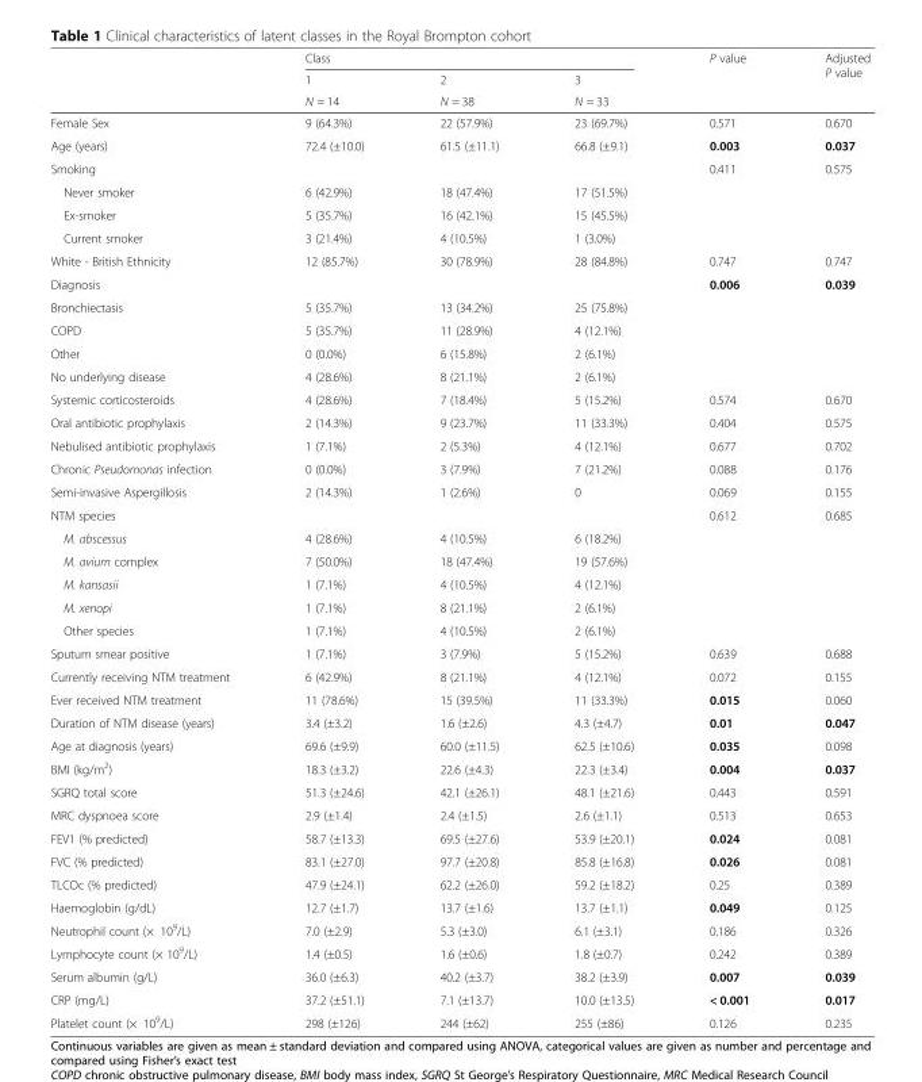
<table><thead><tr><td rowspan="3"></td><td colspan="3">Class</td><td rowspan="3">P value</td><td rowspan="3">Adjusted P value</td></tr><tr><td rowspan="2">1 N = 14</td><td rowspan="2">2 N = 38</td><td rowspan="2">3 N = 33</td></tr><tr></tr></thead><tbody><tr><td>Female Sex</td><td>9 (64.3%)</td><td>22 (57.9%)</td><td>23 (69.7%)</td><td>0.571</td><td>0.670</td></tr><tr><td>Age (years)</td><td>72.4 (±10.0)</td><td>61.5 (±11.1)</td><td>66.8 (±9.1)</td><td>0.003</td><td>0.037</td></tr><tr><td>Smoking</td><td></td><td></td><td></td><td>0.411</td><td>0.575</td></tr><tr><td>Never smoker</td><td>6 (42.9%)</td><td>18 (47.4%)</td><td>17 (51.5%)</td><td></td><td></td></tr><tr><td>Ex-smoker</td><td>5 (35.7%)</td><td>16 (42.1%)</td><td>15 (45.5%)</td><td></td><td></td></tr><tr><td>Current smoker</td><td>3 (21.4%)</td><td>4 (10.5%)</td><td>1 (3.0%)</td><td></td><td></td></tr><tr><td>White - British Ethnicity</td><td>12 (85.7%)</td><td>30 (78.9%)</td><td>28 (84.8%)</td><td>0.747</td><td>0.747</td></tr><tr><td>Diagnosis</td><td></td><td></td><td></td><td>0.006</td><td>0.039</td></tr><tr><td>Bronchiectasis</td><td>5 (35.7%)</td><td>13 (34.2%)</td><td>25 (75.8%)</td><td></td><td></td></tr><tr><td>COPD</td><td>5 (35.7%)</td><td>11 (28.9%)</td><td>4 (12.1%)</td><td></td><td></td></tr><tr><td>Other</td><td>0 (0.0%)</td><td>6 (15.8%)</td><td>2 (6.1%)</td><td></td><td></td></tr><tr><td>No underlying disease</td><td>4 (28.6%)</td><td>8 (21.1%)</td><td>2 (6.1%)</td><td></td><td></td></tr><tr><td>Systemic corticosteroids</td><td>4 (28.6%)</td><td>7 (18.4%)</td><td>5 (15.2%)</td><td>0.574</td><td>0.670</td></tr><tr><td>Oral antibiotic prophylaxis</td><td>2 (14.3%)</td><td>9 (23.7%)</td><td>11 (33.3%)</td><td>0.404</td><td>0.575</td></tr><tr><td>Nebulised antibiotic prophylaxis</td><td>1 (7.1%)</td><td>2 (5.3%)</td><td>4 (12.1%)</td><td>0.677</td><td>0.702</td></tr><tr><td>Chronic Pseudomonas infection</td><td>0 (0.0%)</td><td>3 (7.9%)</td><td>7 (21.2%)</td><td>0.088</td><td>0.176</td></tr><tr><td>Semi-invasive Aspergillosis</td><td>2 (14.3%)</td><td>1 (2.6%)</td><td>0</td><td>0.069</td><td>0.155</td></tr><tr><td>NTM species</td><td></td><td></td><td></td><td>0.612</td><td>0.685</td></tr><tr><td>M. abscessus</td><td>4 (28.6%)</td><td>4 (10.5%)</td><td>6 (18.2%)</td><td></td><td></td></tr><tr><td>M. avium complex</td><td>7 (50.0%)</td><td>18 (47.4%)</td><td>19 (57.6%)</td><td></td><td></td></tr><tr><td>M. kansasii</td><td>1 (7.1%)</td><td>4 (10.5%)</td><td>4 (12.1%)</td><td></td><td></td></tr><tr><td>M. xenopi</td><td>1 (7.1%)</td><td>8 (21.1%)</td><td>2 (6.1%)</td><td></td><td></td></tr><tr><td>Other species</td><td>1 (7.1%)</td><td>4 (10.5%)</td><td>2 (6.1%)</td><td></td><td></td></tr><tr><td>Sputum smear positive</td><td>1 (7.1%)</td><td>3 (7.9%)</td><td>5 (15.2%)</td><td>0.639</td><td>0.688</td></tr><tr><td>Currently receiving NTM treatment</td><td>6 (42.9%)</td><td>8 (21.1%)</td><td>4 (12.1%)</td><td>0.072</td><td>0.155</td></tr><tr><td>Ever received NTM treatment</td><td>11 (78.6%)</td><td>15 (39.5%)</td><td>11 (33.3%)</td><td>0.015</td><td>0.060</td></tr><tr><td>Duration of NTM disease (years)</td><td>3.4 (±3.2)</td><td>1.6 (±2.6)</td><td>4.3 (±4.7)</td><td>0.01</td><td>0.047</td></tr><tr><td>Age at diagnosis (years)</td><td>69.6 (±9.9)</td><td>60.0 (±11.5)</td><td>62.5 (±10.6)</td><td>0.035</td><td>0.098</td></tr><tr><td>BMI (kg/m<sup>2</sup>)</td><td>18.3 (±3.2)</td><td>22.6 (±4.3)</td><td>22.3 (±3.4)</td><td>0.004</td><td>0.037</td></tr><tr><td>SGRQ total score</td><td>51.3 (±24.6)</td><td>42.1 (±26.1)</td><td>48.1 (±21.6)</td><td>0.443</td><td>0.591</td></tr><tr><td>MRC dyspnoea score</td><td>2.9 (±1.4)</td><td>2.4 (±1.5)</td><td>2.6 (±1.1)</td><td>0.513</td><td>0.653</td></tr><tr><td>FEV1 (% predicted)</td><td>58.7 (±13.3)</td><td>69.5 (±27.6)</td><td>53.9 (±20.1)</td><td>0.024</td><td>0.081</td></tr><tr><td>FVC (% predicted)</td><td>83.1 (±27.0)</td><td>97.7 (±20.8)</td><td>85.8 (±16.8)</td><td>0.026</td><td>0.081</td></tr><tr><td>TLCOc (% predicted)</td><td>47.9 (±24.1)</td><td>62.2 (±26.0)</td><td>59.2 (±18.2)</td><td>0.25</td><td>0.389</td></tr><tr><td>Haemoglobin (g/dL)</td><td>12.7 (±1.7)</td><td>13.7 (±1.6)</td><td>13.7 (±1.1)</td><td>0.049</td><td>0.125</td></tr><tr><td>Neutrophil count (× 10<sup>9</sup>/L)</td><td>7.0 (±2.9)</td><td>5.3 (±3.0)</td><td>6.1 (±3.1)</td><td>0.186</td><td>0.326</td></tr><tr><td>Lymphocyte count (× 10<sup>9</sup>/L)</td><td>1.4 (±0.5)</td><td>1.6 (±0.6)</td><td>1.8 (±0.7)</td><td>0.242</td><td>0.389</td></tr><tr><td>Serum albumin (g/L)</td><td>36.0 (±6.3)</td><td>40.2 (±3.7)</td><td>38.2 (±3.9)</td><td>0.007</td><td>0.039</td></tr><tr><td>CRP (mg/L)</td><td>37.2 (±51.1)</td><td>7.1 (±13.7)</td><td>10.0 (±13.5)</td><td>&lt; 0.001</td><td>0.017</td></tr><tr><td>Platelet count (× 10<sup>9</sup>/L)</td><td>298 (±126)</td><td>244 (±62)</td><td>255 (±86)</td><td>0.126</td><td>0.235</td></tr></tbody></table>